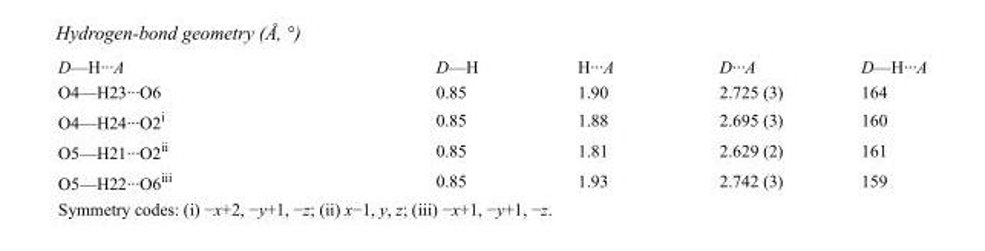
<table><tbody><tr><td>D—H···A</td><td>D—H</td><td>H···A</td><td>D···A</td><td>D—H···A</td></tr><tr><td>O4—H23···O6</td><td>0.85</td><td>1.90</td><td>2.725 (3)</td><td>164</td></tr><tr><td>O4—H24···O2<sup>i</sup></td><td>0.85</td><td>1.88</td><td>2.695 (3)</td><td>160</td></tr><tr><td>O5—H21···O2<sup>ii</sup></td><td>0.85</td><td>1.81</td><td>2.629 (2)</td><td>161</td></tr><tr><td>O5—H22···O6<sup>iii</sup></td><td>0.85</td><td>1.93</td><td>2.742 (3)</td><td>159</td></tr></tbody></table>